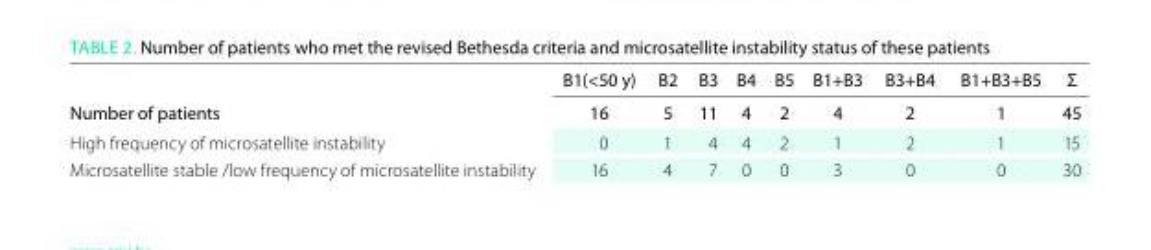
<table><thead><tr><td></td><td>B1(&lt;50 y)</td><td>B2</td><td>B3</td><td>B4</td><td>B5</td><td>B1+B3</td><td>B3+B4</td><td>B1+B3+B5</td><td>Σ</td></tr></thead><tbody><tr><td>Number of patients</td><td>16</td><td>5</td><td>11</td><td>4</td><td>2</td><td>4</td><td>2</td><td>1</td><td>45</td></tr><tr><td>High frequency of microsatellite instability</td><td>0</td><td>1</td><td>4</td><td>4</td><td>2</td><td>1</td><td>2</td><td>1</td><td>15</td></tr><tr><td>Microsatellite stable /low frequency of microsatellite instability</td><td>16</td><td>4</td><td>7</td><td>0</td><td>0</td><td>3</td><td>0</td><td>0</td><td>30</td></tr></tbody></table>